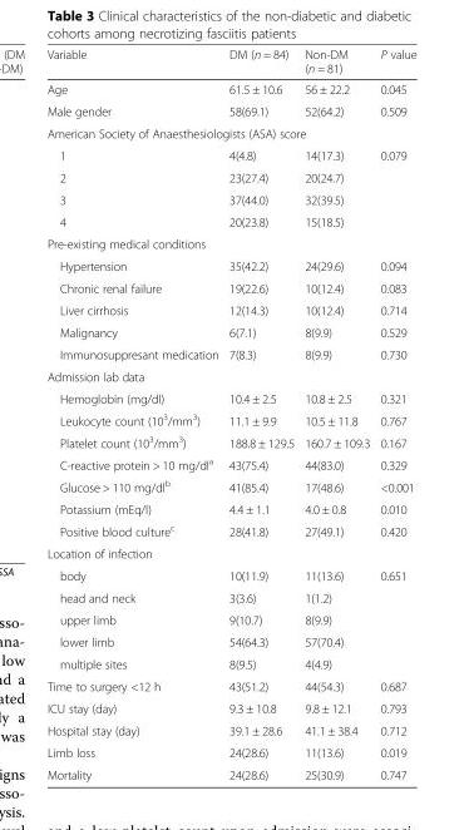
<table><thead><tr><td>Variable</td><td>DM (n = 84)</td><td>Non-DM (n = 81)</td><td>P value</td></tr></thead><tbody><tr><td>Age</td><td>61.5 ± 10.6</td><td>56 ± 22.2</td><td>0.045</td></tr><tr><td>Male gender</td><td>58(69.1)</td><td>52(64.2)</td><td>0.509</td></tr><tr><td colspan="4">American Society of Anaesthesiologists (ASA) score</td></tr><tr><td>1</td><td>4(4.8)</td><td>14(17.3)</td><td>0.079</td></tr><tr><td>2</td><td>23(27.4)</td><td>20(24.7)</td><td></td></tr><tr><td>3</td><td>37(44.0)</td><td>32(39.5)</td><td></td></tr><tr><td>4</td><td>20(23.8)</td><td>15(18.5)</td><td></td></tr><tr><td colspan="4">Pre-existing medical conditions</td></tr><tr><td>Hypertension</td><td>35(42.2)</td><td>24(29.6)</td><td>0.094</td></tr><tr><td>Chronic renal failure</td><td>19(22.6)</td><td>10(12.4)</td><td>0.083</td></tr><tr><td>Liver cirrhosis</td><td>12(14.3)</td><td>10(12.4)</td><td>0.714</td></tr><tr><td>Malignancy</td><td>6(7.1)</td><td>8(9.9)</td><td>0.529</td></tr><tr><td>Immunosuppresant medication</td><td>7(8.3)</td><td>8(9.9)</td><td>0.730</td></tr><tr><td colspan="4">Admission lab data</td></tr><tr><td>Hemoglobin (mg/dl)</td><td>10.4 ± 2.5</td><td>10.8 ± 2.5</td><td>0.321</td></tr><tr><td>Leukocyte count (10<sup>3</sup>/mm<sup>3</sup>)</td><td>11.1 ± 9.9</td><td>10.5 ± 11.8</td><td>0.767</td></tr><tr><td>Platelet count (10<sup>3</sup>/mm<sup>3</sup>)</td><td>188.8 ± 129.5</td><td>160.7 ± 109.3</td><td>0.167</td></tr><tr><td>C-reactive protein &gt; 10 mg/dl<sup>a</sup></td><td>43(75.4)</td><td>44(83.0)</td><td>0.329</td></tr><tr><td>Glucose &gt; 110 mg/dl<sup>b</sup></td><td>41(85.4)</td><td>17(48.6)</td><td>&lt;0.001</td></tr><tr><td>Potassium (mEq/l)</td><td>4.4 ± 1.1</td><td>4.0 ± 0.8</td><td>0.010</td></tr><tr><td>Positive blood culture<sup>c</sup></td><td>28(41.8)</td><td>27(49.1)</td><td>0.420</td></tr><tr><td colspan="4">Location of infection</td></tr><tr><td>body</td><td>10(11.9)</td><td>11(13.6)</td><td>0.651</td></tr><tr><td>head and neck</td><td>3(3.6)</td><td>1(1.2)</td><td></td></tr><tr><td>upper limb</td><td>9(10.7)</td><td>8(9.9)</td><td></td></tr><tr><td>lower limb</td><td>54(64.3)</td><td>57(70.4)</td><td></td></tr><tr><td>multiple sites</td><td>8(9.5)</td><td>4(4.9)</td><td></td></tr><tr><td>Time to surgery &lt;12 h</td><td>43(51.2)</td><td>44(54.3)</td><td>0.687</td></tr><tr><td>ICU stay (day)</td><td>9.3 ± 10.8</td><td>9.8 ± 12.1</td><td>0.793</td></tr><tr><td>Hospital stay (day)</td><td>39.1 ± 28.6</td><td>41.1 ± 38.4</td><td>0.712</td></tr><tr><td>Limb loss</td><td>24(28.6)</td><td>11(13.6)</td><td>0.019</td></tr><tr><td>Mortality</td><td>24(28.6)</td><td>25(30.9)</td><td>0.747</td></tr></tbody></table>